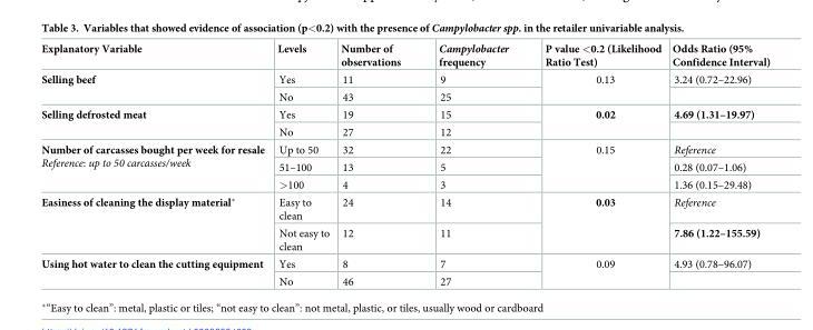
<table><thead><tr><td>Explanatory Variable</td><td>Levels</td><td>Number of observations</td><td>Campylobacter frequency</td><td>P value &lt;0.2 (Likelihood Ratio Test)</td><td>Odds Ratio (95% Confidence Interval)</td></tr></thead><tbody><tr><td rowspan="2">Selling beef</td><td>Yes</td><td>11</td><td>9</td><td rowspan="2">0.13</td><td>3.24 (0.72–22.96)</td></tr><tr><td>No</td><td>43</td><td>25</td><td></td></tr><tr><td rowspan="2">Selling defrosted meat</td><td>Yes</td><td>19</td><td>15</td><td rowspan="2">0.02</td><td>4.69 (1.31–19.97)</td></tr><tr><td>No</td><td>27</td><td>12</td><td></td></tr><tr><td rowspan="3">Number of carcasses bought per week for resale Reference: up to 50 carcasses/week</td><td>Up to 50</td><td>32</td><td>22</td><td rowspan="3">0.15</td><td>Reference</td></tr><tr><td>51–100</td><td>13</td><td>5</td><td>0.28 (0.07–1.06)</td></tr><tr><td>&gt;100</td><td>4</td><td>3</td><td>1.36 (0.15–29.48)</td></tr><tr><td rowspan="2">Easiness of cleaning the display material*</td><td>Easy to clean</td><td>24</td><td>14</td><td rowspan="2">0.03</td><td>Reference</td></tr><tr><td>Not easy to clean</td><td>12</td><td>11</td><td>7.86 (1.22–155.59)</td></tr><tr><td rowspan="2">Using hot water to clean the cutting equipment</td><td>Yes</td><td>8</td><td>7</td><td rowspan="2">0.09</td><td>4.93 (0.78–96.07)</td></tr><tr><td>No</td><td>46</td><td>27</td><td></td></tr></tbody></table>